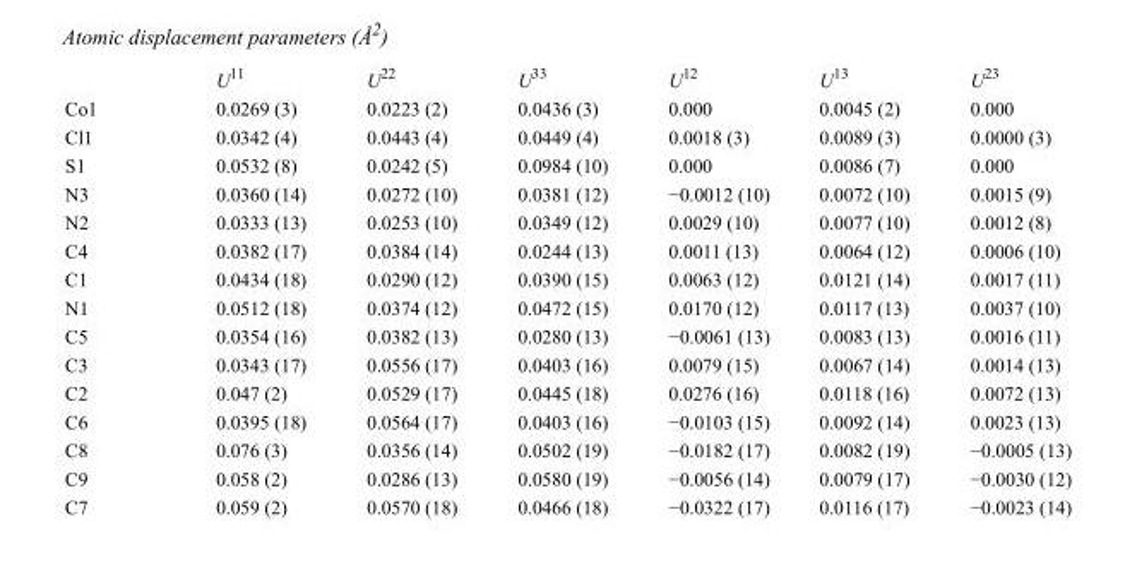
<table><thead><tr><td></td><td>U<sup>11</sup></td><td>U<sup>22</sup></td><td>U<sup>33</sup></td><td>U<sup>12</sup></td><td>U<sup>13</sup></td><td>U<sup>23</sup></td></tr></thead><tbody><tr><td>Co1</td><td>0.0269 (3)</td><td>0.0223 (2)</td><td>0.0436 (3)</td><td>0.000</td><td>0.0045 (2)</td><td>0.000</td></tr><tr><td>Cl1</td><td>0.0342 (4)</td><td>0.0443 (4)</td><td>0.0449 (4)</td><td>0.0018 (3)</td><td>0.0089 (3)</td><td>0.0000 (3)</td></tr><tr><td>S1</td><td>0.0532 (8)</td><td>0.0242 (5)</td><td>0.0984 (10)</td><td>0.000</td><td>0.0086 (7)</td><td>0.000</td></tr><tr><td>N3</td><td>0.0360 (14)</td><td>0.0272 (10)</td><td>0.0381 (12)</td><td>−0.0012 (10)</td><td>0.0072 (10)</td><td>0.0015 (9)</td></tr><tr><td>N2</td><td>0.0333 (13)</td><td>0.0253 (10)</td><td>0.0349 (12)</td><td>0.0029 (10)</td><td>0.0077 (10)</td><td>0.0012 (8)</td></tr><tr><td>C4</td><td>0.0382 (17)</td><td>0.0384 (14)</td><td>0.0244 (13)</td><td>0.0011 (13)</td><td>0.0064 (12)</td><td>0.0006 (10)</td></tr><tr><td>C1</td><td>0.0434 (18)</td><td>0.0290 (12)</td><td>0.0390 (15)</td><td>0.0063 (12)</td><td>0.0121 (14)</td><td>0.0017 (11)</td></tr><tr><td>N1</td><td>0.0512 (18)</td><td>0.0374 (12)</td><td>0.0472 (15)</td><td>0.0170 (12)</td><td>0.0117 (13)</td><td>0.0037 (10)</td></tr><tr><td>C5</td><td>0.0354 (16)</td><td>0.0382 (13)</td><td>0.0280 (13)</td><td>−0.0061 (13)</td><td>0.0083 (13)</td><td>0.0016 (11)</td></tr><tr><td>C3</td><td>0.0343 (17)</td><td>0.0556 (17)</td><td>0.0403 (16)</td><td>0.0079 (15)</td><td>0.0067 (14)</td><td>0.0014 (13)</td></tr><tr><td>C2</td><td>0.047 (2)</td><td>0.0529 (17)</td><td>0.0445 (18)</td><td>0.0276 (16)</td><td>0.0118 (16)</td><td>0.0072 (13)</td></tr><tr><td>C6</td><td>0.0395 (18)</td><td>0.0564 (17)</td><td>0.0403 (16)</td><td>−0.0103 (15)</td><td>0.0092 (14)</td><td>0.0023 (13)</td></tr><tr><td>C8</td><td>0.076 (3)</td><td>0.0356 (14)</td><td>0.0502 (19)</td><td>−0.0182 (17)</td><td>0.0082 (19)</td><td>−0.0005 (13)</td></tr><tr><td>C9</td><td>0.058 (2)</td><td>0.0286 (13)</td><td>0.0580 (19)</td><td>−0.0056 (14)</td><td>0.0079 (17)</td><td>−0.0030 (12)</td></tr><tr><td>C7</td><td>0.059 (2)</td><td>0.0570 (18)</td><td>0.0466 (18)</td><td>−0.0322 (17)</td><td>0.0116 (17)</td><td>−0.0023 (14)</td></tr></tbody></table>